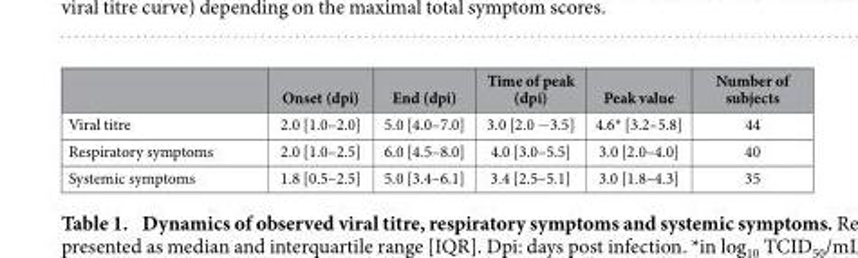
<table><thead><tr><td></td><td>Onset (dpi)</td><td>End (dpi)</td><td>Time of peak (dpi)</td><td>Peak value</td><td>Number of subjects</td></tr></thead><tbody><tr><td>Viral titre</td><td>2.0 [1.0–2.0]</td><td>5.0 [4.0–7.0]</td><td>3.0 [2.0 − 3.5]</td><td>4.6* [3.2–5.8]</td><td>44</td></tr><tr><td>Respiratory symptoms</td><td>2.0 [1.0–2.5]</td><td>6.0 [4.5–8.0]</td><td>4.0 [3.0–5.5]</td><td>3.0 [2.0–4.0]</td><td>40</td></tr><tr><td>Systemic symptoms</td><td>1.8 [0.5–2.5]</td><td>5.0 [3.4–6.1]</td><td>3.4 [2.5–5.1]</td><td>3.0 [1.8–4.3]</td><td>35</td></tr></tbody></table>